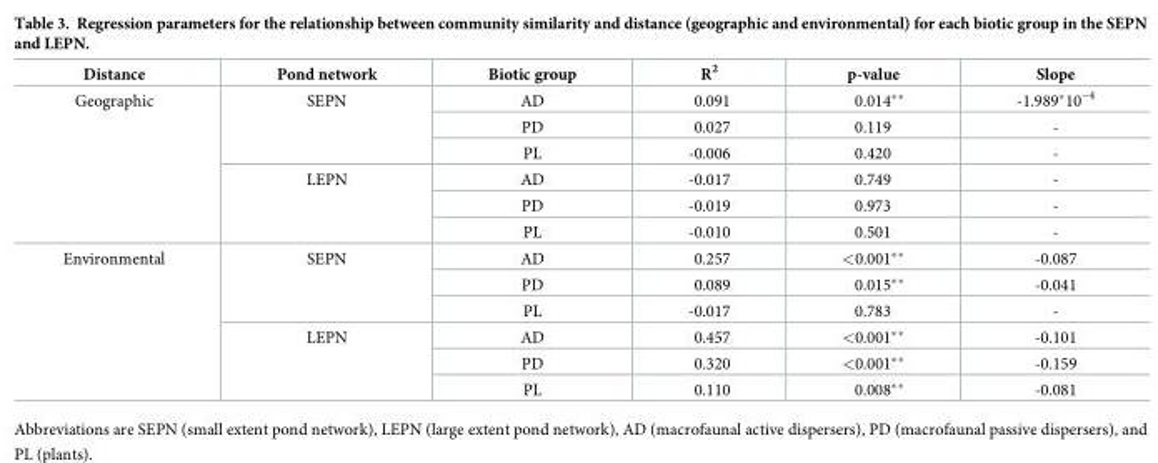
<table><thead><tr><td>Distance</td><td>Pond network</td><td>Biotic group</td><td>R<sup>2</sup></td><td>p-value</td><td>Slope</td></tr></thead><tbody><tr><td rowspan="6">Geographic</td><td rowspan="3">SEPN</td><td>AD</td><td>0.091</td><td>0.014**</td><td>-1.989*10<sup>−4</sup></td></tr><tr><td>PD</td><td>0.027</td><td>0.119</td><td>-</td></tr><tr><td>PL</td><td>-0.006</td><td>0.420</td><td>-</td></tr><tr><td rowspan="3">LEPN</td><td>AD</td><td>-0.017</td><td>0.749</td><td>-</td></tr><tr><td>PD</td><td>-0.019</td><td>0.973</td><td>-</td></tr><tr><td>PL</td><td>-0.010</td><td>0.501</td><td>-</td></tr><tr><td rowspan="6">Environmental</td><td rowspan="3">SEPN</td><td>AD</td><td>0.257</td><td>&lt;0.001**</td><td>-0.087</td></tr><tr><td>PD</td><td>0.089</td><td>0.015**</td><td>-0.041</td></tr><tr><td>PL</td><td>-0.017</td><td>0.783</td><td>-</td></tr><tr><td rowspan="3">LEPN</td><td>AD</td><td>0.457</td><td>&lt;0.001**</td><td>-0.101</td></tr><tr><td>PD</td><td>0.320</td><td>&lt;0.001**</td><td>-0.159</td></tr><tr><td>PL</td><td>0.110</td><td>0.008**</td><td>-0.081</td></tr></tbody></table>